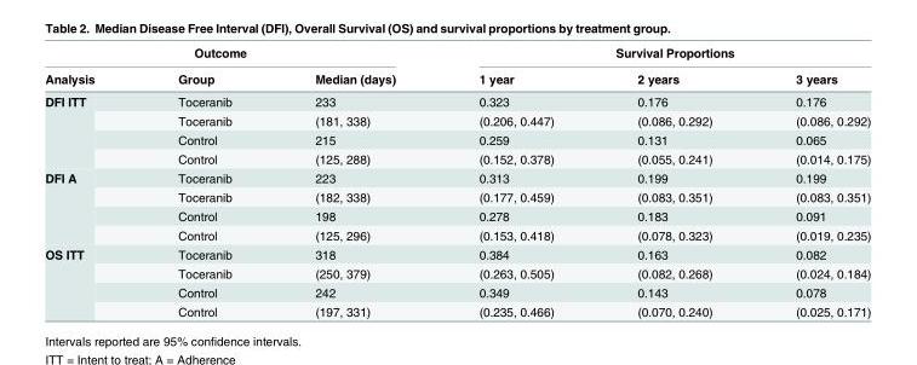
<table><thead><tr><td colspan="3">Outcome</td><td colspan="3">Survival Proportions</td></tr><tr><td>Analysis</td><td>Group</td><td>Median (days)</td><td>1 year</td><td>2 years</td><td>3 years</td></tr></thead><tbody><tr><td rowspan="4">DFI ITT</td><td>Toceranib</td><td>233</td><td>0.323</td><td>0.176</td><td>0.176</td></tr><tr><td>Toceranib</td><td>(181, 338)</td><td>(0.206, 0.447)</td><td>(0.086, 0.292)</td><td>(0.086, 0.292)</td></tr><tr><td>Control</td><td>215</td><td>0.259</td><td>0.131</td><td>0.065</td></tr><tr><td>Control</td><td>(125, 288)</td><td>(0.152, 0.378)</td><td>(0.055, 0.241)</td><td>(0.014, 0.175)</td></tr><tr><td rowspan="4">DFI A</td><td>Toceranib</td><td>223</td><td>0.313</td><td>0.199</td><td>0.199</td></tr><tr><td>Toceranib</td><td>(182, 338)</td><td>(0.177, 0.459)</td><td>(0.083, 0.351)</td><td>(0.083, 0.351)</td></tr><tr><td>Control</td><td>198</td><td>0.278</td><td>0.183</td><td>0.091</td></tr><tr><td>Control</td><td>(125, 296)</td><td>(0.153, 0.418)</td><td>(0.078, 0.323)</td><td>(0.019, 0.235)</td></tr><tr><td rowspan="4">OS ITT</td><td>Toceranib</td><td>318</td><td>0.384</td><td>0.163</td><td>0.082</td></tr><tr><td>Toceranib</td><td>(250, 379)</td><td>(0.263, 0.505)</td><td>(0.082, 0.268)</td><td>(0.024, 0.184)</td></tr><tr><td>Control</td><td>242</td><td>0.349</td><td>0.143</td><td>0.078</td></tr><tr><td>Control</td><td>(197, 331)</td><td>(0.235, 0.466)</td><td>(0.070, 0.240)</td><td>(0.025, 0.171)</td></tr></tbody></table>